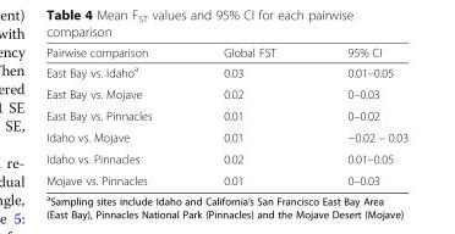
<table><thead><tr><td>Pairwise comparison</td><td>Global FST</td><td>95% CI</td></tr></thead><tbody><tr><td>East Bay vs. Idaho<sup>a</sup></td><td>0.03</td><td>0.01–0.05</td></tr><tr><td>East Bay vs. Mojave</td><td>0.02</td><td>0–0.03</td></tr><tr><td>East Bay vs. Pinnacles</td><td>0.01</td><td>0–0.02</td></tr><tr><td>Idaho vs. Mojave</td><td>0.01</td><td>−0.02 – 0.03</td></tr><tr><td>Idaho vs. Pinnacles</td><td>0.02</td><td>0.01–0.05</td></tr><tr><td>Mojave vs. Pinnacles</td><td>0.01</td><td>0–0.03</td></tr></tbody></table>